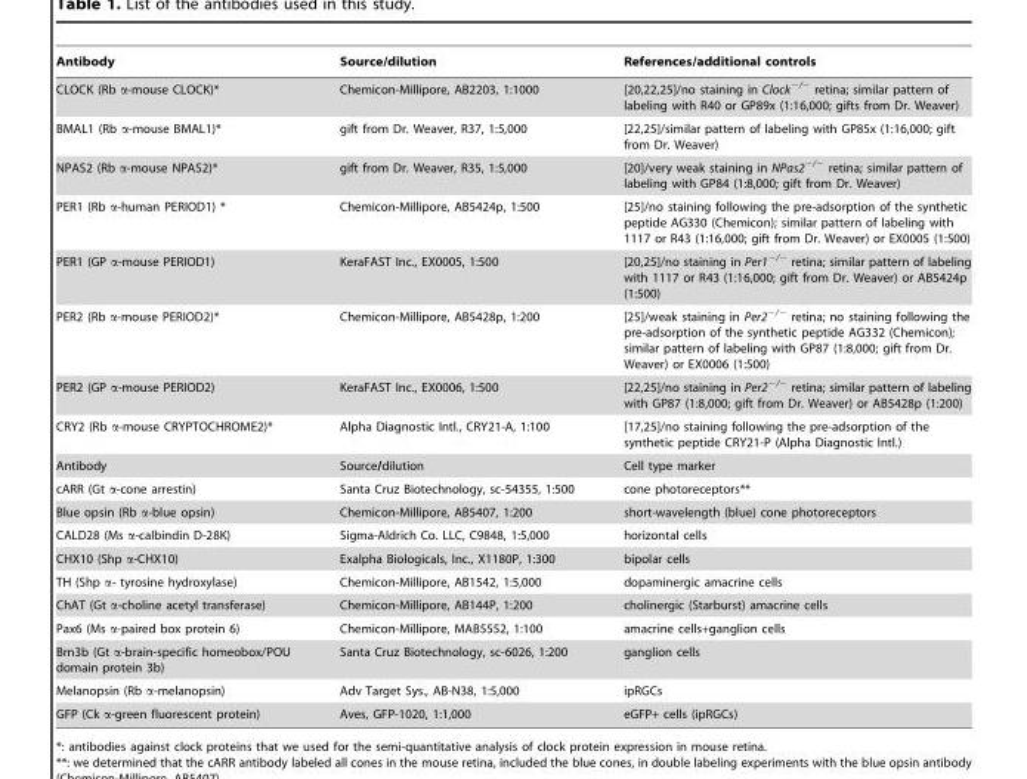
<table><thead><tr><td>Antibody</td><td>Source/dilution</td><td>References/additional controls</td></tr></thead><tbody><tr><td>CLOCK (Rb α-mouse CLOCK)*</td><td>Chemicon-Millipore, AB2203, 1:1000</td><td>[20,22,25]/no staining in Clock2/2 retina; similar pattern of labeling with R40 or GP89x (1:16,000; gifts from Dr. Weaver)</td></tr><tr><td>BMAL1 (Rb α-mouse BMAL1)*</td><td>gift from Dr. Weaver, R37, 1:5,000</td><td>[22,25]/similar pattern of labeling with GP85x (1:16,000; gift from Dr. Weaver)</td></tr><tr><td>NPAS2 (Rb α-mouse NPAS2)*</td><td>gift from Dr. Weaver, R35, 1:5,000</td><td>[20]/very weak staining in NPas2−/− retina; similar pattern of labeling with GP84 (1:8,000; gift from Dr. Weaver)</td></tr><tr><td>PER1 (Rb α-human PERIOD1) *</td><td>Chemicon-Millipore, AB5424p, 1:500</td><td>[25]/no staining following the pre-adsorption of the synthetic peptide AG330 (Chemicon); similar pattern of labeling with 1117 or R43 (1:16,000; gift from Dr. Weaver) or EX0005 (1:500)</td></tr><tr><td>PER1 (GP α-mouse PERIOD1)</td><td>KeraFAST Inc., EX0005, 1:500</td><td>[20,25]/no staining in Per12/2 retina; similar pattern of labeling with 1117 or R43 (1:16,000; gift from Dr. Weaver) or AB5424p (1:500)</td></tr><tr><td>PER2 (Rb α-mouse PERIOD2)*</td><td>Chemicon-Millipore, AB5428p, 1:200</td><td>[25]/weak staining in Per2−/− retina; no staining following the pre-adsorption of the synthetic peptide AG332 (Chemicon); similar pattern of labeling with GP87 (1:8,000; gift from Dr. Weaver) or EX0006 (1:500)</td></tr><tr><td>PER2 (GP α-mouse PERIOD2)</td><td>KeraFAST Inc., EX0006, 1:500</td><td>[22,25]/no staining in Per22/2 retina; similar pattern of labeling with GP87 (1:8,000; gift from Dr. Weaver) or AB5428p (1:200)</td></tr><tr><td>CRY2 (Rb α-mouse CRYPTOCHROME2)*</td><td>Alpha Diagnostic Intl., CRY21-A, 1:100</td><td>[17,25]/no staining following the pre-adsorption of the synthetic peptide CRY21-P (Alpha Diagnostic Intl.)</td></tr><tr><td>Antibody</td><td>Source/dilution</td><td>Cell type marker</td></tr><tr><td>cARR (Gt α-cone arrestin)</td><td>Santa Cruz Biotechnology, sc-54355, 1:500</td><td>cone photoreceptors**</td></tr><tr><td>Blue opsin (Rb α-blue opsin)</td><td>Chemicon-Millipore, AB5407, 1:200</td><td>short-wavelength (blue) cone photoreceptors</td></tr><tr><td>CALD28 (Ms α-calbindin D-28K)</td><td>Sigma-Aldrich Co. LLC, C9848, 1:5,000</td><td>horizontal cells</td></tr><tr><td>CHX10 (Shp α-CHX10)</td><td>Exalpha Biologicals, Inc., X1180P, 1:300</td><td>bipolar cells</td></tr><tr><td>TH (Shp α- tyrosine hydroxylase)</td><td>Chemicon-Millipore, AB1542, 1:5,000</td><td>dopaminergic amacrine cells</td></tr><tr><td>ChAT (Gt α-choline acetyl transferase)</td><td>Chemicon-Millipore, AB144P, 1:200</td><td>cholinergic (Starburst) amacrine cells</td></tr><tr><td>Pax6 (Ms α-paired box protein 6)</td><td>Chemicon-Millipore, MAB5552, 1:100</td><td>amacrine cells+ganglion cells</td></tr><tr><td>Brn3b (Gt α-brain-specific homeobox/POU domain protein 3b)</td><td>Santa Cruz Biotechnology, sc-6026, 1:200</td><td>ganglion cells</td></tr><tr><td>Melanopsin (Rb α-melanopsin)</td><td>Adv Target Sys., AB-N38, 1:5,000</td><td>ipRGCs</td></tr><tr><td>GFP (Ck α-green fluorescent protein)</td><td>Aves, GFP-1020, 1:1,000</td><td>eGFP+ cells (ipRGCs)</td></tr></tbody></table>